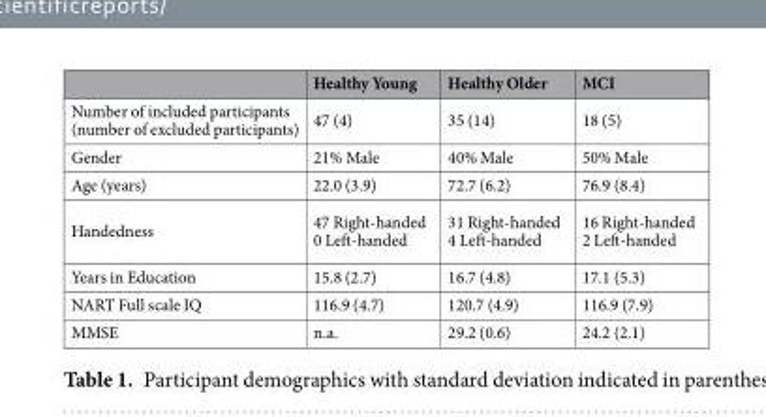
<table><thead><tr><td></td><td>Healthy Young</td><td>Healthy Older</td><td>MCI</td></tr></thead><tbody><tr><td>Number of included participants (number of excluded participants)</td><td>47 (4)</td><td>35 (14)</td><td>18 (5)</td></tr><tr><td>Gender</td><td>21% Male</td><td>40% Male</td><td>50% Male</td></tr><tr><td>Age (years)</td><td>22.0 (3.9)</td><td>72.7 (6.2)</td><td>76.9 (8.4)</td></tr><tr><td>Handedness</td><td>47 Right-handed 0 Left-handed</td><td>31 Right-handed 4 Left-handed</td><td>16 Right-handed 2 Left-handed</td></tr><tr><td>Years in Education</td><td>15.8 (2.7)</td><td>16.7 (4.8)</td><td>17.1 (5.3)</td></tr><tr><td>NART Full scale IQ</td><td>116.9 (4.7)</td><td>120.7 (4.9)</td><td>116.9 (7.9)</td></tr><tr><td>MMSE</td><td>n.a.</td><td>29.2 (0.6)</td><td>24.2 (2.1)</td></tr></tbody></table>